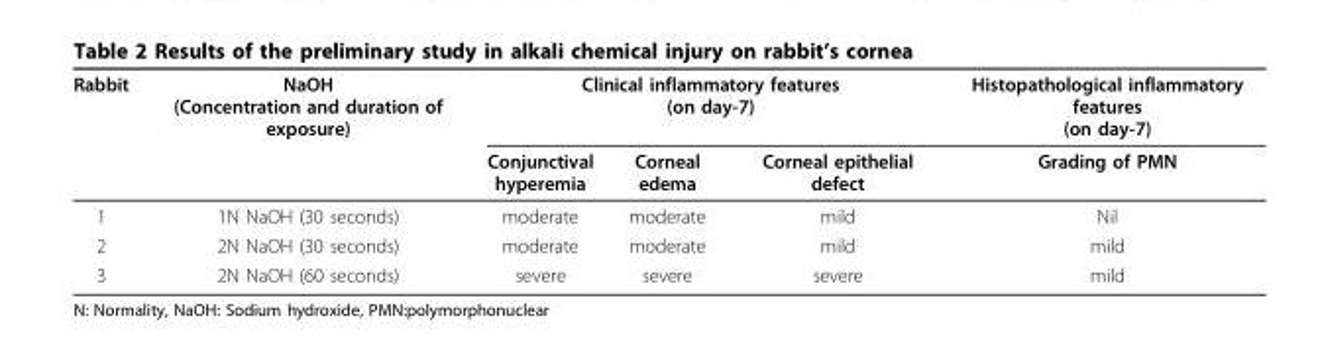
<table><thead><tr><td rowspan="2">Rabbit</td><td rowspan="2">NaOH (Concentration and duration of exposure)</td><td colspan="3">Clinical inflammatory features (on day-7)</td><td rowspan="2">Histopathological inflammatory features (on day-7) Grading of PMN</td></tr><tr><td>Conjunctival hyperemia</td><td>Corneal edema</td><td>Corneal epithelial defect</td></tr></thead><tbody><tr><td>1</td><td>1N NaOH (30 seconds)</td><td>moderate</td><td>moderate</td><td>mild</td><td>Nil</td></tr><tr><td>2</td><td>2N NaOH (30 seconds)</td><td>moderate</td><td>moderate</td><td>mild</td><td>mild</td></tr><tr><td>3</td><td>2N NaOH (60 seconds)</td><td>severe</td><td>severe</td><td>severe</td><td>mild</td></tr></tbody></table>